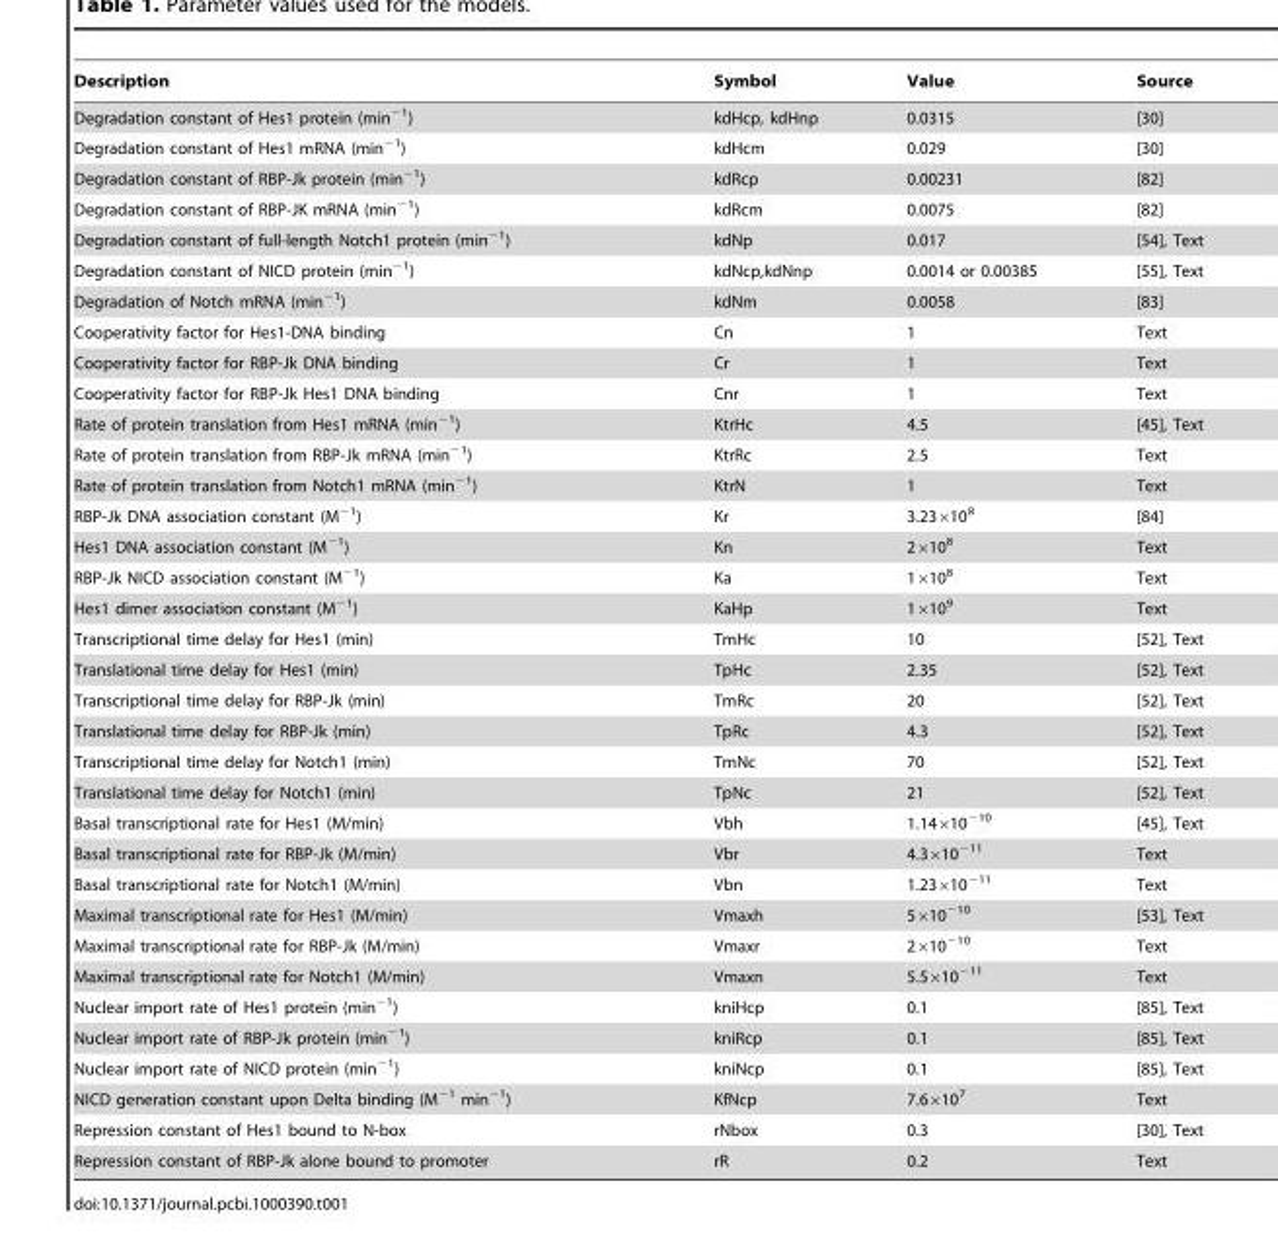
<table><thead><tr><td>Description</td><td>Symbol</td><td>Value</td><td>Source</td></tr></thead><tbody><tr><td>Degradation constant of Hes1 protein (min<sup>−1</sup>)</td><td>kdHcp, kdHnp</td><td>0.0315</td><td>[30]</td></tr><tr><td>Degradation constant of Hes1 mRNA (min<sup>−1</sup>)</td><td>kdHcm</td><td>0.029</td><td>[30]</td></tr><tr><td>Degradation constant of RBP-Jk protein (min<sup>−1</sup>)</td><td>kdRcp</td><td>0.00231</td><td>[82]</td></tr><tr><td>Degradation constant of RBP-JK mRNA (min<sup>−1</sup>)</td><td>kdRcm</td><td>0.0075</td><td>[82]</td></tr><tr><td>Degradation constant of full-length Notch1 protein (min<sup>−1</sup>)</td><td>kdNp</td><td>0.017</td><td>[54], Text</td></tr><tr><td>Degradation constant of NICD protein (min<sup>−1</sup>)</td><td>kdNcp,kdNnp</td><td>0.0014 or 0.00385</td><td>[55], Text</td></tr><tr><td>Degradation of Notch mRNA (min<sup>−1</sup>)</td><td>kdNm</td><td>0.0058</td><td>[83]</td></tr><tr><td>Cooperativity factor for Hes1-DNA binding</td><td>Cn</td><td>1</td><td>Text</td></tr><tr><td>Cooperativity factor for RBP-Jk DNA binding</td><td>Cr</td><td>1</td><td>Text</td></tr><tr><td>Cooperativity factor for RBP-Jk Hes1 DNA binding</td><td>Cnr</td><td>1</td><td>Text</td></tr><tr><td>Rate of protein translation from Hes1 mRNA (min<sup>−1</sup>)</td><td>KtrHc</td><td>4.5</td><td>[45], Text</td></tr><tr><td>Rate of protein translation from RBP-Jk mRNA (min<sup>−1</sup>)</td><td>KtrRc</td><td>2.5</td><td>Text</td></tr><tr><td>Rate of protein translation from Notch1 mRNA (min<sup>−1</sup>)</td><td>KtrN</td><td>1</td><td>Text</td></tr><tr><td>RBP-Jk DNA association constant (M<sup>−1</sup>)</td><td>Kr</td><td>3.23×10<sup>8</sup></td><td>[84]</td></tr><tr><td>Hes1 DNA association constant (M<sup>−1</sup>)</td><td>Kn</td><td>2×10<sup>8</sup></td><td>Text</td></tr><tr><td>RBP-Jk NICD association constant (M<sup>−1</sup>)</td><td>Ka</td><td>1×10<sup>8</sup></td><td>Text</td></tr><tr><td>Hes1 dimer association constant (M<sup>−1</sup>)</td><td>KaHp</td><td>1×10<sup>9</sup></td><td>Text</td></tr><tr><td>Transcriptional time delay for Hes1 (min)</td><td>TmHc</td><td>10</td><td>[52], Text</td></tr><tr><td>Translational time delay for Hes1 (min)</td><td>TpHc</td><td>2.35</td><td>[52], Text</td></tr><tr><td>Transcriptional time delay for RBP-Jk (min)</td><td>TmRc</td><td>20</td><td>[52], Text</td></tr><tr><td>Translational time delay for RBP-Jk (min)</td><td>TpRc</td><td>4.3</td><td>[52], Text</td></tr><tr><td>Transcriptional time delay for Notch1 (min)</td><td>TmNc</td><td>70</td><td>[52], Text</td></tr><tr><td>Translational time delay for Notch1 (min)</td><td>TpNc</td><td>21</td><td>[52], Text</td></tr><tr><td>Basal transcriptional rate for Hes1 (M/min)</td><td>Vbh</td><td>1.14×10<sup>−10</sup></td><td>[45], Text</td></tr><tr><td>Basal transcriptional rate for RBP-Jk (M/min)</td><td>Vbr</td><td>4.3×10<sup>−11</sup></td><td>Text</td></tr><tr><td>Basal transcriptional rate for Notch1 (M/min)</td><td>Vbn</td><td>1.23×10<sup>−11</sup></td><td>Text</td></tr><tr><td>Maximal transcriptional rate for Hes1 (M/min)</td><td>Vmaxh</td><td>5×10<sup>−10</sup></td><td>[53], Text</td></tr><tr><td>Maximal transcriptional rate for RBP-Jk (M/min)</td><td>Vmaxr</td><td>2×10<sup>−10</sup></td><td>Text</td></tr><tr><td>Maximal transcriptional rate for Notch1 (M/min)</td><td>Vmaxn</td><td>5.5×10<sup>−11</sup></td><td>Text</td></tr><tr><td>Nuclear import rate of Hes1 protein (min<sup>−1</sup>)</td><td>kniHcp</td><td>0.1</td><td>[85], Text</td></tr><tr><td>Nuclear import rate of RBP-Jk protein (min<sup>−1</sup>)</td><td>kniRcp</td><td>0.1</td><td>[85], Text</td></tr><tr><td>Nuclear import rate of NICD protein (min<sup>−1</sup>)</td><td>kniNcp</td><td>0.1</td><td>[85], Text</td></tr><tr><td>NICD generation constant upon Delta binding (M<sup>−1</sup> min<sup>−1</sup>)</td><td>KfNcp</td><td>7.6×10<sup>7</sup></td><td>Text</td></tr><tr><td>Repression constant of Hes1 bound to N-box</td><td>rNbox</td><td>0.3</td><td>[30], Text</td></tr><tr><td>Repression constant of RBP-Jk alone bound to promoter</td><td>rR</td><td>0.2</td><td>Text</td></tr></tbody></table>